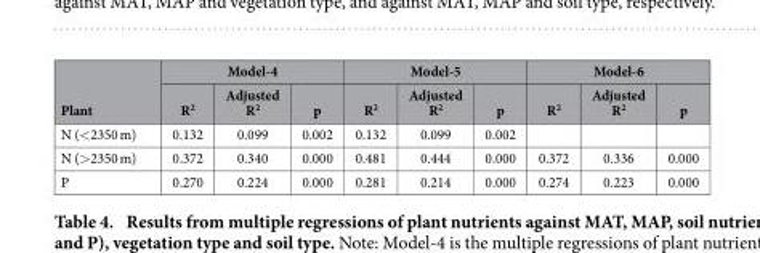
<table><thead><tr><td rowspan="2">Plant</td><td colspan="3">Model-4</td><td colspan="3">Model-5</td><td colspan="3">Model-6</td></tr><tr><td>R<sup>2</sup></td><td>Adjusted R<sup>2</sup></td><td>p</td><td>R<sup>2</sup></td><td>Adjusted R<sup>2</sup></td><td>p</td><td>R<sup>2</sup></td><td>Adjusted R<sup>2</sup></td><td>p</td></tr></thead><tbody><tr><td>N (&lt; 2350 m)</td><td>0.132</td><td>0.099</td><td>0.002</td><td>0.132</td><td>0.099</td><td>0.002</td><td></td><td></td><td></td></tr><tr><td>N (&gt; 2350 m)</td><td>0.372</td><td>0.340</td><td>0.000</td><td>0.481</td><td>0.444</td><td>0.000</td><td>0.372</td><td>0.336</td><td>0.000</td></tr><tr><td>P</td><td>0.270</td><td>0.224</td><td>0.000</td><td>0.281</td><td>0.214</td><td>0.000</td><td>0.274</td><td>0.223</td><td>0.000</td></tr></tbody></table>